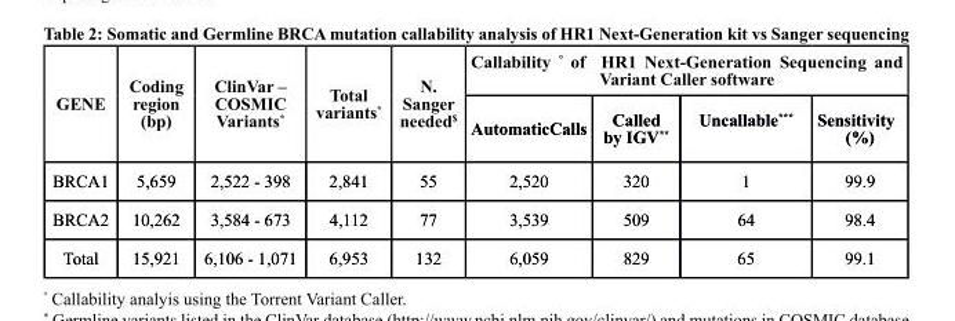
<table><thead><tr><td rowspan="2">GENE</td><td rowspan="2">coding region (bp)</td><td rowspan="2">clinVar – cOsMIc Variants*</td><td rowspan="2">total variants*</td><td rowspan="2">N. sanger needed<sup>$</sup></td><td colspan="4">callability <sup>°</sup> of Hr1 Next-Generation sequencing and Variant caller software</td></tr><tr><td>Automaticcalls</td><td>called by IGV**</td><td>Uncallable***</td><td>sensitivity (%)</td></tr></thead><tbody><tr><td>BRCA1</td><td>5,659</td><td>2,522 - 398</td><td>2,841</td><td>55</td><td>2,520</td><td>320</td><td>1</td><td>99.9</td></tr><tr><td>BRCA2</td><td>10,262</td><td>3,584 - 673</td><td>4,112</td><td>77</td><td>3,539</td><td>509</td><td>64</td><td>98.4</td></tr><tr><td>Total</td><td>15,921</td><td>6,106 - 1,071</td><td>6,953</td><td>132</td><td>6,059</td><td>829</td><td>65</td><td>99.1</td></tr></tbody></table>